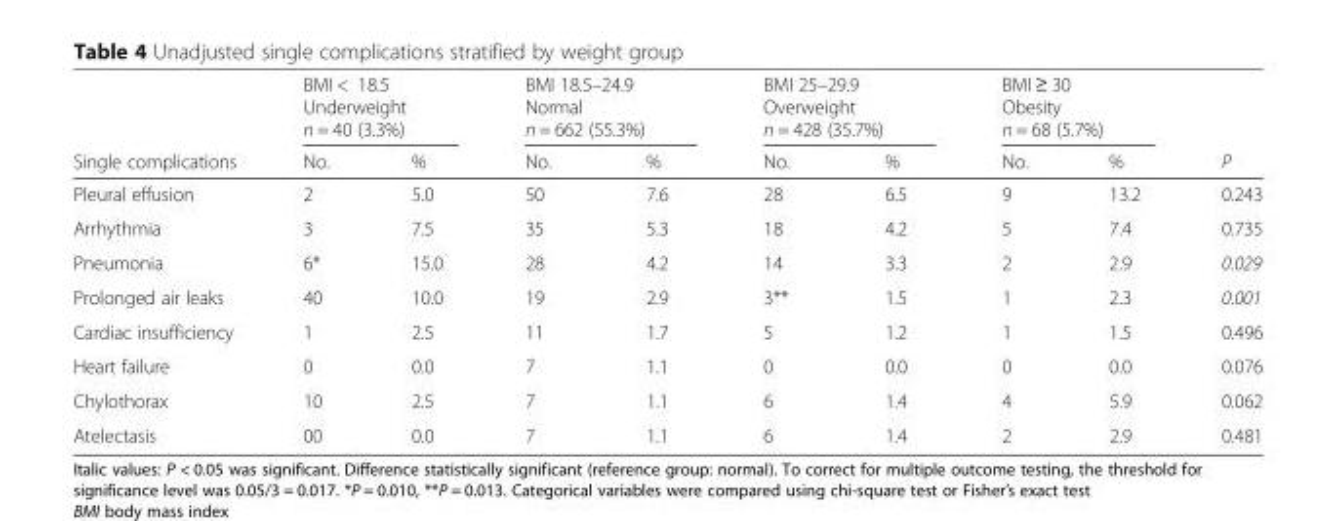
<table><thead><tr><td rowspan="4">Single complications</td><td rowspan="3" colspan="2">BMI &lt; 18.5 Underweight n = 40 (3.3%)</td><td rowspan="3" colspan="2">BMI 18.5–24.9 Normal n = 662 (55.3%)</td><td rowspan="3" colspan="2">BMI 25–29.9 Overweight n = 428 (35.7%)</td><td rowspan="3" colspan="2">BMI ≥ 30 Obesity n = 68 (5.7%)</td><td rowspan="4">P</td></tr><tr></tr><tr></tr><tr><td>No.</td><td>%</td><td>No.</td><td>%</td><td>No.</td><td>%</td><td>No.</td><td>%</td></tr></thead><tbody><tr><td>Pleural effusion</td><td>2</td><td>5.0</td><td>50</td><td>7.6</td><td>28</td><td>6.5</td><td>9</td><td>13.2</td><td>0.243</td></tr><tr><td>Arrhythmia</td><td>3</td><td>7.5</td><td>35</td><td>5.3</td><td>18</td><td>4.2</td><td>5</td><td>7.4</td><td>0.735</td></tr><tr><td>Pneumonia</td><td>6*</td><td>15.0</td><td>28</td><td>4.2</td><td>14</td><td>3.3</td><td>2</td><td>2.9</td><td>0.029</td></tr><tr><td>Prolonged air leaks</td><td>40</td><td>10.0</td><td>19</td><td>2.9</td><td>3**</td><td>1.5</td><td>1</td><td>2.3</td><td>0.001</td></tr><tr><td>Cardiac insufficiency</td><td>1</td><td>2.5</td><td>11</td><td>1.7</td><td>5</td><td>1.2</td><td>1</td><td>1.5</td><td>0.496</td></tr><tr><td>Heart failure</td><td>0</td><td>0.0</td><td>7</td><td>1.1</td><td>0</td><td>0.0</td><td>0</td><td>0.0</td><td>0.076</td></tr><tr><td>Chylothorax</td><td>10</td><td>2.5</td><td>7</td><td>1.1</td><td>6</td><td>1.4</td><td>4</td><td>5.9</td><td>0.062</td></tr><tr><td>Atelectasis</td><td>00</td><td>0.0</td><td>7</td><td>1.1</td><td>6</td><td>1.4</td><td>2</td><td>2.9</td><td>0.481</td></tr></tbody></table>